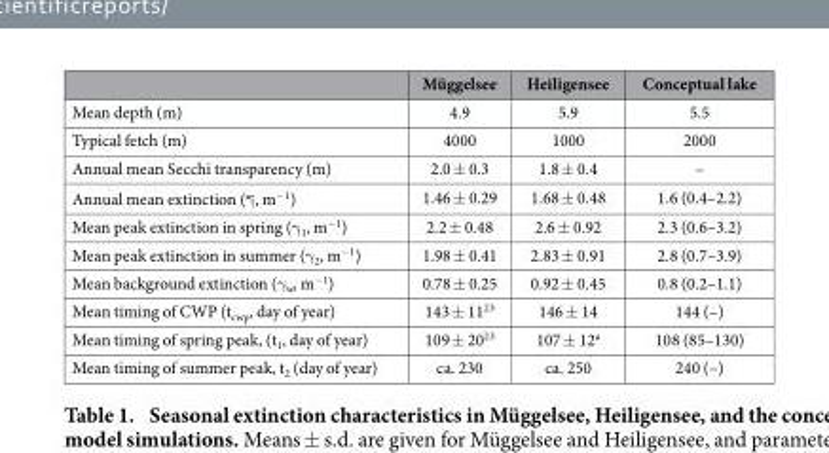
<table><thead><tr><td></td><td>Müggelsee</td><td>Heiligensee</td><td>Conceptual lake</td></tr></thead><tbody><tr><td>Mean depth (m)</td><td>4.9</td><td>5.9</td><td>5.5</td></tr><tr><td>Typical fetch (m)</td><td>4000</td><td>1000</td><td>2000</td></tr><tr><td>Annual mean Secchi transparency (m)</td><td>2.0 ± 0.3</td><td>1.8 ± 0.4</td><td>–</td></tr><tr><td>Annual mean extinction (γ, m−1)</td><td>1.46 ± 0.29</td><td>1.68 ± 0.48</td><td>1.6 (0.4–2.2)</td></tr><tr><td>Mean peak extinction in spring (γ <sub>1</sub>, m<sup>−1</sup>)</td><td>2.2 ± 0.48</td><td>2.6 ± 0.92</td><td>2.3 (0.6–3.2)</td></tr><tr><td>Mean peak extinction in summer (γ <sub>2</sub>, m<sup>−1</sup>)</td><td>1.98 ± 0.41</td><td>2.83 ± 0.91</td><td>2.8 (0.7–3.9)</td></tr><tr><td>Mean background extinction (γ <sub>w</sub>, m<sup>−1</sup>)</td><td>0.78 ± 0.25</td><td>0.92 ± 0.45</td><td>0.8 (0.2–1.1)</td></tr><tr><td>Mean timing of CWP (t<sub>cwp</sub>, day of year)</td><td>143 ± 11<sup>23</sup></td><td>146 ± 14</td><td>144 (–)</td></tr><tr><td>Mean timing of spring peak, (t<sub>1</sub>, day of year)</td><td>109 ± 20<sup>23</sup></td><td>107 ± 12<sup>a</sup></td><td>108 (85–130)</td></tr><tr><td>Mean timing of summer peak, t<sub>2</sub> (day of year)</td><td>ca. 230</td><td>ca. 250</td><td>240 (–)</td></tr></tbody></table>